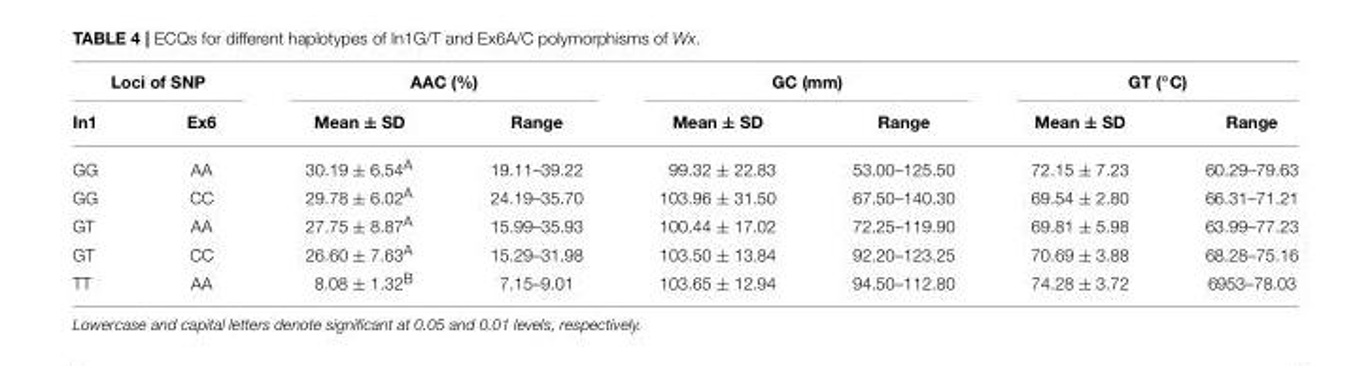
<table><thead><tr><td colspan="2">Loci of SNP</td><td colspan="2">AAC (%)</td><td colspan="2">GC (mm)</td><td colspan="2">GT (◦C)</td></tr><tr><td>In1</td><td>Ex6</td><td>Mean ± SD</td><td>Range</td><td>Mean ± SD</td><td>Range</td><td>Mean ± SD</td><td>Range</td></tr></thead><tbody><tr><td>GG</td><td>AA</td><td>30.19 ± 6.54<sup>A</sup></td><td>19.11–39.22</td><td>99.32 ± 22.83</td><td>53.00–125.50</td><td>72.15 ± 7.23</td><td>60.29–79.63</td></tr><tr><td>GG</td><td>CC</td><td>29.78 ± 6.02<sup>A</sup></td><td>24.19–35.70</td><td>103.96 ± 31.50</td><td>67.50–140.30</td><td>69.54 ± 2.80</td><td>66.31–71.21</td></tr><tr><td>GT</td><td>AA</td><td>27.75 ± 8.87<sup>A</sup></td><td>15.99–35.93</td><td>100.44 ± 17.02</td><td>72.25–119.90</td><td>69.81 ± 5.98</td><td>63.99–77.23</td></tr><tr><td>GT</td><td>CC</td><td>26.60 ± 7.63<sup>A</sup></td><td>15.29–31.98</td><td>103.50 ± 13.84</td><td>92.20–123.25</td><td>70.69 ± 3.88</td><td>68.28–75.16</td></tr><tr><td>TT</td><td>AA</td><td>8.08 ± 1.32<sup>B</sup></td><td>7.15–9.01</td><td>103.65 ± 12.94</td><td>94.50–112.80</td><td>74.28 ± 3.72</td><td>6953–78.03</td></tr></tbody></table>